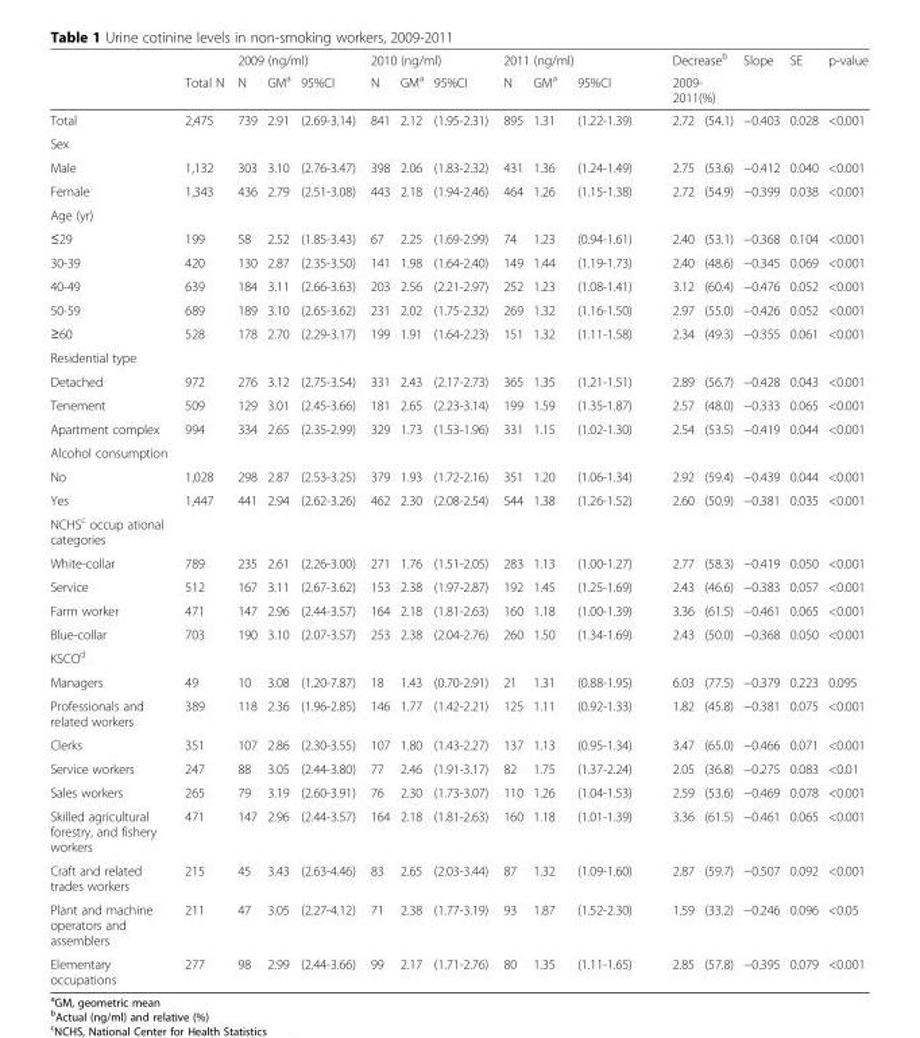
<table><thead><tr><td rowspan="3">Total</td><td rowspan="3">Total N 2,475</td><td colspan="3">2009 (ng/ml)</td><td colspan="3">2010 (ng/ml)</td><td colspan="3">2011 (ng/ml)</td><td rowspan="2" colspan="2">Decrease<sup>b</sup> 2009- 2011(%)</td><td rowspan="3">Slope −0.403</td><td rowspan="3">SE 0.028</td><td rowspan="3">p-value &lt;0.001</td></tr><tr><td rowspan="2">N 739</td><td rowspan="2">GM<sup>a</sup> 2.91</td><td rowspan="2">95%CI (2.69-3.14)</td><td rowspan="2">N 841</td><td rowspan="2">GM<sup>a</sup> 2.12</td><td rowspan="2">95%CI (1.95-2.31)</td><td rowspan="2">N 895</td><td rowspan="2">GM<sup>a</sup> 1.31</td><td rowspan="2">95%CI (1.22-1.39)</td></tr><tr><td>2.72</td><td>(54.1)</td></tr></thead><tbody><tr><td colspan="16">Sex</td></tr><tr><td>Male</td><td>1,132</td><td>303</td><td>3.10</td><td>(2.76-3.47)</td><td>398</td><td>2.06</td><td>(1.83-2.32)</td><td>431</td><td>1.36</td><td>(1.24-1.49)</td><td>2.75</td><td>(53.6)</td><td>−0.412</td><td>0.040</td><td>&lt;0.001</td></tr><tr><td>Female</td><td>1,343</td><td>436</td><td>2.79</td><td>(2.51-3.08)</td><td>443</td><td>2.18</td><td>(1.94-2.46)</td><td>464</td><td>1.26</td><td>(1.15-1.38)</td><td>2.72</td><td>(54.9)</td><td>−0.399</td><td>0.038</td><td>&lt;0.001</td></tr><tr><td colspan="16">Age (yr)</td></tr><tr><td>≤29</td><td>199</td><td>58</td><td>2.52</td><td>(1.85-3.43)</td><td>67</td><td>2.25</td><td>(1.69-2.99)</td><td>74</td><td>1.23</td><td>(0.94-1.61)</td><td>2.40</td><td>(53.1)</td><td>−0.368</td><td>0.104</td><td>&lt;0.001</td></tr><tr><td>30-39</td><td>420</td><td>130</td><td>2.87</td><td>(2.35-3.50)</td><td>141</td><td>1.98</td><td>(1.64-2.40)</td><td>149</td><td>1.44</td><td>(1.19-1.73)</td><td>2.40</td><td>(48.6)</td><td>−0.345</td><td>0.069</td><td>&lt;0.001</td></tr><tr><td>40-49</td><td>639</td><td>184</td><td>3.11</td><td>(2.66-3.63)</td><td>203</td><td>2.56</td><td>(2.21-2.97)</td><td>252</td><td>1.23</td><td>(1.08-1.41)</td><td>3.12</td><td>(60.4)</td><td>−0.476</td><td>0.052</td><td>&lt;0.001</td></tr><tr><td>50-59</td><td>689</td><td>189</td><td>3.10</td><td>(2.65-3.62)</td><td>231</td><td>2.02</td><td>(1.75-2.32)</td><td>269</td><td>1.32</td><td>(1.16-1.50)</td><td>2.97</td><td>(55.0)</td><td>−0.426</td><td>0.052</td><td>&lt;0.001</td></tr><tr><td>≥60</td><td>528</td><td>178</td><td>2.70</td><td>(2.29-3.17)</td><td>199</td><td>1.91</td><td>(1.64-2.23)</td><td>151</td><td>1.32</td><td>(1.11-1.58)</td><td>2.34</td><td>(49.3)</td><td>−0.355</td><td>0.061</td><td>&lt;0.001</td></tr><tr><td colspan="16">Residential type</td></tr><tr><td>Detached</td><td>972</td><td>276</td><td>3.12</td><td>(2.75-3.54)</td><td>331</td><td>2.43</td><td>(2.17-2.73)</td><td>365</td><td>1.35</td><td>(1.21-1.51)</td><td>2.89</td><td>(56.7)</td><td>−0.428</td><td>0.043</td><td>&lt;0.001</td></tr><tr><td>Tenement</td><td>509</td><td>129</td><td>3.01</td><td>(2.45-3.66)</td><td>181</td><td>2.65</td><td>(2.23-3.14)</td><td>199</td><td>1.59</td><td>(1.35-1.87)</td><td>2.57</td><td>(48.0)</td><td>−0.333</td><td>0.065</td><td>&lt;0.001</td></tr><tr><td>Apartment complex</td><td>994</td><td>334</td><td>2.65</td><td>(2.35-2.99)</td><td>329</td><td>1.73</td><td>(1.53-1.96)</td><td>331</td><td>1.15</td><td>(1.02-1.30)</td><td>2.54</td><td>(53.5)</td><td>−0.419</td><td>0.044</td><td>&lt;0.001</td></tr><tr><td colspan="16">Alcohol consumption</td></tr><tr><td>No</td><td>1,028</td><td>298</td><td>2.87</td><td>(2.53-3.25)</td><td>379</td><td>1.93</td><td>(1.72-2.16)</td><td>351</td><td>1.20</td><td>(1.06-1.34)</td><td>2.92</td><td>(59.4)</td><td>−0.439</td><td>0.044</td><td>&lt;0.001</td></tr><tr><td>Yes</td><td>1,447</td><td>441</td><td>2.94</td><td>(2.62-3.26)</td><td>462</td><td>2.30</td><td>(2.08-2.54)</td><td>544</td><td>1.38</td><td>(1.26-1.52)</td><td>2.60</td><td>(50.9)</td><td>−0.381</td><td>0.035</td><td>&lt;0.001</td></tr><tr><td colspan="16">NCHS<sup>c</sup> occup ational categories</td></tr><tr><td>White-collar</td><td>789</td><td>235</td><td>2.61</td><td>(2.26-3.00)</td><td>271</td><td>1.76</td><td>(1.51-2.05)</td><td>283</td><td>1.13</td><td>(1.00-1.27)</td><td>2.77</td><td>(58.3)</td><td>−0.419</td><td>0.050</td><td>&lt;0.001</td></tr><tr><td>Service</td><td>512</td><td>167</td><td>3.11</td><td>(2.67-3.62)</td><td>153</td><td>2.38</td><td>(1.97-2.87)</td><td>192</td><td>1.45</td><td>(1.25-1.69)</td><td>2.43</td><td>(46.6)</td><td>−0.383</td><td>0.057</td><td>&lt;0.001</td></tr><tr><td>Farm worker</td><td>471</td><td>147</td><td>2.96</td><td>(2.44-3.57)</td><td>164</td><td>2.18</td><td>(1.81-2.63)</td><td>160</td><td>1.18</td><td>(1.00-1.39)</td><td>3.36</td><td>(61.5)</td><td>−0.461</td><td>0.065</td><td>&lt;0.001</td></tr><tr><td>Blue-collar</td><td>703</td><td>190</td><td>3.10</td><td>(2.07-3.57)</td><td>253</td><td>2.38</td><td>(2.04-2.76)</td><td>260</td><td>1.50</td><td>(1.34-1.69)</td><td>2.43</td><td>(50.0)</td><td>−0.368</td><td>0.050</td><td>&lt;0.001</td></tr><tr><td colspan="16">KSCO<sup>d</sup></td></tr><tr><td>Managers</td><td>49</td><td>10</td><td>3.08</td><td>(1.20-7.87)</td><td>18</td><td>1.43</td><td>(0.70-2.91)</td><td>21</td><td>1.31</td><td>(0.88-1.95)</td><td>6.03</td><td>(77.5)</td><td>−0.379</td><td>0.223</td><td>0.095</td></tr><tr><td>Professionals and related workers</td><td>389</td><td>118</td><td>2.36</td><td>(1.96-2.85)</td><td>146</td><td>1.77</td><td>(1.42-2.21)</td><td>125</td><td>1.11</td><td>(0.92-1.33)</td><td>1.82</td><td>(45.8)</td><td>−0.381</td><td>0.075</td><td>&lt;0.001</td></tr><tr><td>Clerks</td><td>351</td><td>107</td><td>2.86</td><td>(2.30-3.55)</td><td>107</td><td>1.80</td><td>(1.43-2.27)</td><td>137</td><td>1.13</td><td>(0.95-1.34)</td><td>3.47</td><td>(65.0)</td><td>−0.466</td><td>0.071</td><td>&lt;0.001</td></tr><tr><td>Service workers</td><td>247</td><td>88</td><td>3.05</td><td>(2.44-3.80)</td><td>77</td><td>2.46</td><td>(1.91-3.17)</td><td>82</td><td>1.75</td><td>(1.37-2.24)</td><td>2.05</td><td>(36.8)</td><td>−0.275</td><td>0.083</td><td>&lt;0.01</td></tr><tr><td>Sales workers</td><td>265</td><td>79</td><td>3.19</td><td>(2.60-3.91)</td><td>76</td><td>2.30</td><td>(1.73-3.07)</td><td>110</td><td>1.26</td><td>(1.04-1.53)</td><td>2.59</td><td>(53.6)</td><td>−0.469</td><td>0.078</td><td>&lt;0.001</td></tr><tr><td>Skilled agricultural forestry, and fishery workers</td><td>471</td><td>147</td><td>2.96</td><td>(2.44-3.57)</td><td>164</td><td>2.18</td><td>(1.81-2.63)</td><td>160</td><td>1.18</td><td>(1.01-1.39)</td><td>3.36</td><td>(61.5)</td><td>−0.461</td><td>0.065</td><td>&lt;0.001</td></tr><tr><td>Craft and related trades workers</td><td>215</td><td>45</td><td>3.43</td><td>(2.63-4.46)</td><td>83</td><td>2.65</td><td>(2.03-3.44)</td><td>87</td><td>1.32</td><td>(1.09-1.60)</td><td>2.87</td><td>(59.7)</td><td>−0.507</td><td>0.092</td><td>&lt;0.001</td></tr><tr><td>Plant and machine operators and assemblers</td><td>211</td><td>47</td><td>3.05</td><td>(2.27-4.12)</td><td>71</td><td>2.38</td><td>(1.77-3.19)</td><td>93</td><td>1.87</td><td>(1.52-2.30)</td><td>1.59</td><td>(33.2)</td><td>−0.246</td><td>0.096</td><td>&lt;0.05</td></tr><tr><td>Elementary occupations</td><td>277</td><td>98</td><td>2.99</td><td>(2.44-3.66)</td><td>99</td><td>2.17</td><td>(1.71-2.76)</td><td>80</td><td>1.35</td><td>(1.11-1.65)</td><td>2.85</td><td>(57.8)</td><td>−0.395</td><td>0.079</td><td>&lt;0.001</td></tr></tbody></table>